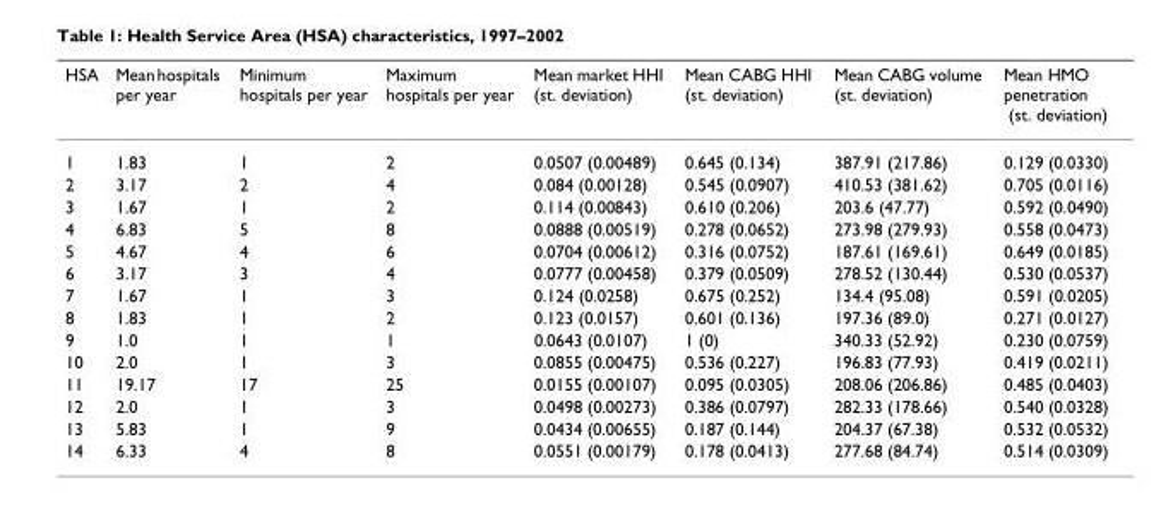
<table><thead><tr><td>HSA</td><td>Mean hospitals per year</td><td>Minimum hospitals per year</td><td>Maximum hospitals per year</td><td>Mean market HHI (st. deviation)</td><td>Mean CABG HHI (st. deviation)</td><td>Mean CABG volume (st. deviation)</td><td>Mean HMO penetration (st. deviation)</td></tr></thead><tbody><tr><td>1</td><td>1.83</td><td>1</td><td>2</td><td>0.0507 (0.00489)</td><td>0.645 (0.134)</td><td>387.91 (217.86)</td><td>0.129 (0.0330)</td></tr><tr><td>2</td><td>3.17</td><td>2</td><td>4</td><td>0.084 (0.00128)</td><td>0.545 (0.0907)</td><td>410.53 (381.62)</td><td>0.705 (0.0116)</td></tr><tr><td>3</td><td>1.67</td><td>1</td><td>2</td><td>0.114 (0.00843)</td><td>0.610 (0.206)</td><td>203.6 (47.77)</td><td>0.592 (0.0490)</td></tr><tr><td>4</td><td>6.83</td><td>5</td><td>8</td><td>0.0888 (0.00519)</td><td>0.278 (0.0652)</td><td>273.98 (279.93)</td><td>0.558 (0.0473)</td></tr><tr><td>5</td><td>4.67</td><td>4</td><td>6</td><td>0.0704 (0.00612)</td><td>0.316 (0.0752)</td><td>187.61 (169.61)</td><td>0.649 (0.0185)</td></tr><tr><td>6</td><td>3.17</td><td>3</td><td>4</td><td>0.0777 (0.00458)</td><td>0.379 (0.0509)</td><td>278.52 (130.44)</td><td>0.530 (0.0537)</td></tr><tr><td>7</td><td>1.67</td><td>1</td><td>3</td><td>0.124 (0.0258)</td><td>0.675 (0.252)</td><td>134.4 (95.08)</td><td>0.591 (0.0205)</td></tr><tr><td>8</td><td>1.83</td><td>1</td><td>2</td><td>0.123 (0.0157)</td><td>0.601 (0.136)</td><td>197.36 (89.0)</td><td>0.271 (0.0127)</td></tr><tr><td>9</td><td>1.0</td><td>1</td><td>1</td><td>0.0643 (0.0107)</td><td>1 (0)</td><td>340.33 (52.92)</td><td>0.230 (0.0759)</td></tr><tr><td>10</td><td>2.0</td><td>1</td><td>3</td><td>0.0855 (0.00475)</td><td>0.536 (0.227)</td><td>196.83 (77.93)</td><td>0.419 (0.0211)</td></tr><tr><td>11</td><td>19.17</td><td>17</td><td>25</td><td>0.0155 (0.00107)</td><td>0.095 (0.0305)</td><td>208.06 (206.86)</td><td>0.485 (0.0403)</td></tr><tr><td>12</td><td>2.0</td><td>1</td><td>3</td><td>0.0498 (0.00273)</td><td>0.386 (0.0797)</td><td>282.33 (178.66)</td><td>0.540 (0.0328)</td></tr><tr><td>13</td><td>5.83</td><td>1</td><td>9</td><td>0.0434 (0.00655)</td><td>0.187 (0.144)</td><td>204.37 (67.38)</td><td>0.532 (0.0532)</td></tr><tr><td>14</td><td>6.33</td><td>4</td><td>8</td><td>0.0551 (0.00179)</td><td>0.178 (0.0413)</td><td>277.68 (84.74)</td><td>0.514 (0.0309)</td></tr></tbody></table>